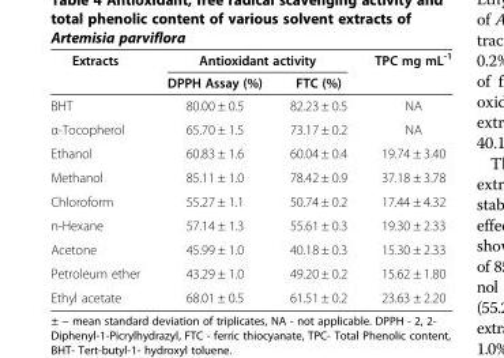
<table><thead><tr><td rowspan="2">Extracts</td><td colspan="2">Antioxidant activity</td><td rowspan="2">TPC mg mL<sup>-1</sup></td></tr><tr><td>DPPH Assay (%)</td><td>FTC (%)</td></tr></thead><tbody><tr><td>BHT</td><td>80.00 ± 0.5</td><td>82.23 ± 0.5</td><td>NA</td></tr><tr><td>α-Tocopherol</td><td>65.70 ± 1.5</td><td>73.17 ± 0.2</td><td>NA</td></tr><tr><td>Ethanol</td><td>60.83 ± 1.6</td><td>60.04 ± 0.4</td><td>19.74 ± 3.40</td></tr><tr><td>Methanol</td><td>85.11 ± 1.0</td><td>78.42 ± 0.9</td><td>37.18 ± 3.78</td></tr><tr><td>Chloroform</td><td>55.27 ± 1.1</td><td>50.74 ± 0.2</td><td>17.44 ± 4.32</td></tr><tr><td>n-Hexane</td><td>57.14 ± 1.3</td><td>55.61 ± 0.3</td><td>19.30 ± 2.33</td></tr><tr><td>Acetone</td><td>45.99 ± 1.0</td><td>40.18 ± 0.3</td><td>15.30 ± 2.33</td></tr><tr><td>Petroleum ether</td><td>43.29 ± 1.0</td><td>49.20 ± 0.2</td><td>15.62 ± 1.80</td></tr><tr><td>Ethyl acetate</td><td>68.01 ± 0.5</td><td>61.51 ± 0.2</td><td>23.63 ± 2.20</td></tr></tbody></table>